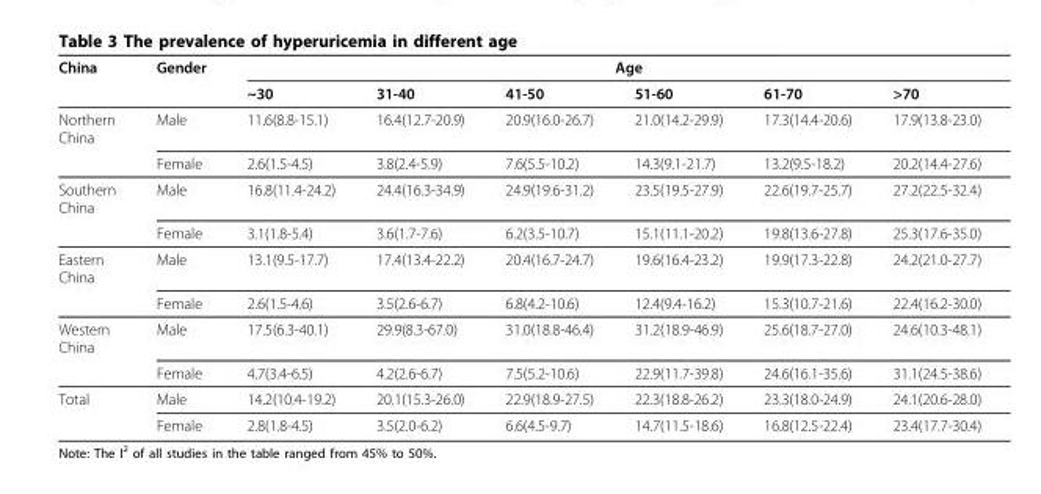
<table><thead><tr><td rowspan="2">China</td><td rowspan="2">Gender</td><td colspan="6">Age</td></tr><tr><td>~30</td><td>31-40</td><td>41-50</td><td>51-60</td><td>61-70</td><td>&gt;70</td></tr></thead><tbody><tr><td rowspan="2">Northern China</td><td>Male</td><td>11.6(8.8-15.1)</td><td>16.4(12.7-20.9)</td><td>20.9(16.0-26.7)</td><td>21.0(14.2-29.9)</td><td>17.3(14.4-20.6)</td><td>17.9(13.8-23.0)</td></tr><tr><td>Female</td><td>2.6(1.5-4.5)</td><td>3.8(2.4-5.9)</td><td>7.6(5.5-10.2)</td><td>14.3(9.1-21.7)</td><td>13.2(9.5-18.2)</td><td>20.2(14.4-27.6)</td></tr><tr><td rowspan="2">Southern China</td><td>Male</td><td>16.8(11.4-24.2)</td><td>24.4(16.3-34.9)</td><td>24.9(19.6-31.2)</td><td>23.5(19.5-27.9)</td><td>22.6(19.7-25.7)</td><td>27.2(22.5-32.4)</td></tr><tr><td>Female</td><td>3.1(1.8-5.4)</td><td>3.6(1.7-7.6)</td><td>6.2(3.5-10.7)</td><td>15.1(11.1-20.2)</td><td>19.8(13.6-27.8)</td><td>25.3(17.6-35.0)</td></tr><tr><td rowspan="2">Eastern China</td><td>Male</td><td>13.1(9.5-17.7)</td><td>17.4(13.4-22.2)</td><td>20.4(16.7-24.7)</td><td>19.6(16.4-23.2)</td><td>19.9(17.3-22.8)</td><td>24.2(21.0-27.7)</td></tr><tr><td>Female</td><td>2.6(1.5-4.6)</td><td>3.5(2.6-6.7)</td><td>6.8(4.2-10.6)</td><td>12.4(9.4-16.2)</td><td>15.3(10.7-21.6)</td><td>22.4(16.2-30.0)</td></tr><tr><td rowspan="2">Western China</td><td>Male</td><td>17.5(6.3-40.1)</td><td>29.9(8.3-67.0)</td><td>31.0(18.8-46.4)</td><td>31.2(18.9-46.9)</td><td>25.6(18.7-27.0)</td><td>24.6(10.3-48.1)</td></tr><tr><td>Female</td><td>4.7(3.4-6.5)</td><td>4.2(2.6-6.7)</td><td>7.5(5.2-10.6)</td><td>22.9(11.7-39.8)</td><td>24.6(16.1-35.6)</td><td>31.1(24.5-38.6)</td></tr><tr><td rowspan="2">Total</td><td>Male</td><td>14.2(10.4-19.2)</td><td>20.1(15.3-26.0)</td><td>22.9(18.9-27.5)</td><td>22.3(18.8-26.2)</td><td>23.3(18.0-24.9)</td><td>24.1(20.6-28.0)</td></tr><tr><td>Female</td><td>2.8(1.8-4.5)</td><td>3.5(2.0-6.2)</td><td>6.6(4.5-9.7)</td><td>14.7(11.5-18.6)</td><td>16.8(12.5-22.4)</td><td>23.4(17.7-30.4)</td></tr></tbody></table>